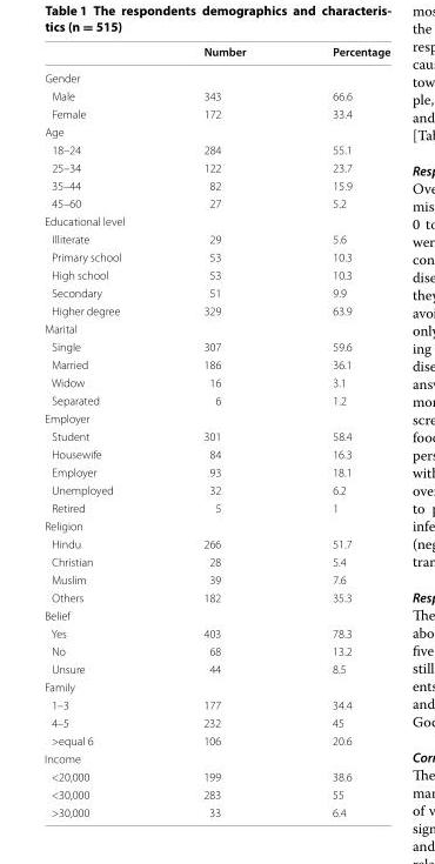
<table><thead><tr><td></td><td>Number</td><td>Percentage</td></tr></thead><tbody><tr><td colspan="3">Gender</td></tr><tr><td>Male</td><td>343</td><td>66.6</td></tr><tr><td>Female</td><td>172</td><td>33.4</td></tr><tr><td colspan="3">Age</td></tr><tr><td>18–24</td><td>284</td><td>55.1</td></tr><tr><td>25–34</td><td>122</td><td>23.7</td></tr><tr><td>35–44</td><td>82</td><td>15.9</td></tr><tr><td>45–60</td><td>27</td><td>5.2</td></tr><tr><td colspan="3">Educational level</td></tr><tr><td>Illiterate</td><td>29</td><td>5.6</td></tr><tr><td>Primary school</td><td>53</td><td>10.3</td></tr><tr><td>High school</td><td>53</td><td>10.3</td></tr><tr><td>Secondary</td><td>51</td><td>9.9</td></tr><tr><td>Higher degree</td><td>329</td><td>63.9</td></tr><tr><td colspan="3">Marital</td></tr><tr><td>Single</td><td>307</td><td>59.6</td></tr><tr><td>Married</td><td>186</td><td>36.1</td></tr><tr><td>Widow</td><td>16</td><td>3.1</td></tr><tr><td>Separated</td><td>6</td><td>1.2</td></tr><tr><td colspan="3">Employer</td></tr><tr><td>Student</td><td>301</td><td>58.4</td></tr><tr><td>Housewife</td><td>84</td><td>16.3</td></tr><tr><td>Employer</td><td>93</td><td>18.1</td></tr><tr><td>Unemployed</td><td>32</td><td>6.2</td></tr><tr><td>Retired</td><td>5</td><td>1</td></tr><tr><td colspan="3">Religion</td></tr><tr><td>Hindu</td><td>266</td><td>51.7</td></tr><tr><td>Christian</td><td>28</td><td>5.4</td></tr><tr><td>Muslim</td><td>39</td><td>7.6</td></tr><tr><td>Others</td><td>182</td><td>35.3</td></tr><tr><td colspan="3">Belief</td></tr><tr><td>Yes</td><td>403</td><td>78.3</td></tr><tr><td>No</td><td>68</td><td>13.2</td></tr><tr><td>Unsure</td><td>44</td><td>8.5</td></tr><tr><td colspan="3">Family</td></tr><tr><td>1–3</td><td>177</td><td>34.4</td></tr><tr><td>4–5</td><td>232</td><td>45</td></tr><tr><td>&gt;equal 6</td><td>106</td><td>20.6</td></tr><tr><td colspan="3">Income</td></tr><tr><td>&lt;20,000</td><td>199</td><td>38.6</td></tr><tr><td>&lt;30,000</td><td>283</td><td>55</td></tr><tr><td>&gt;30,000</td><td>33</td><td>6.4</td></tr></tbody></table>